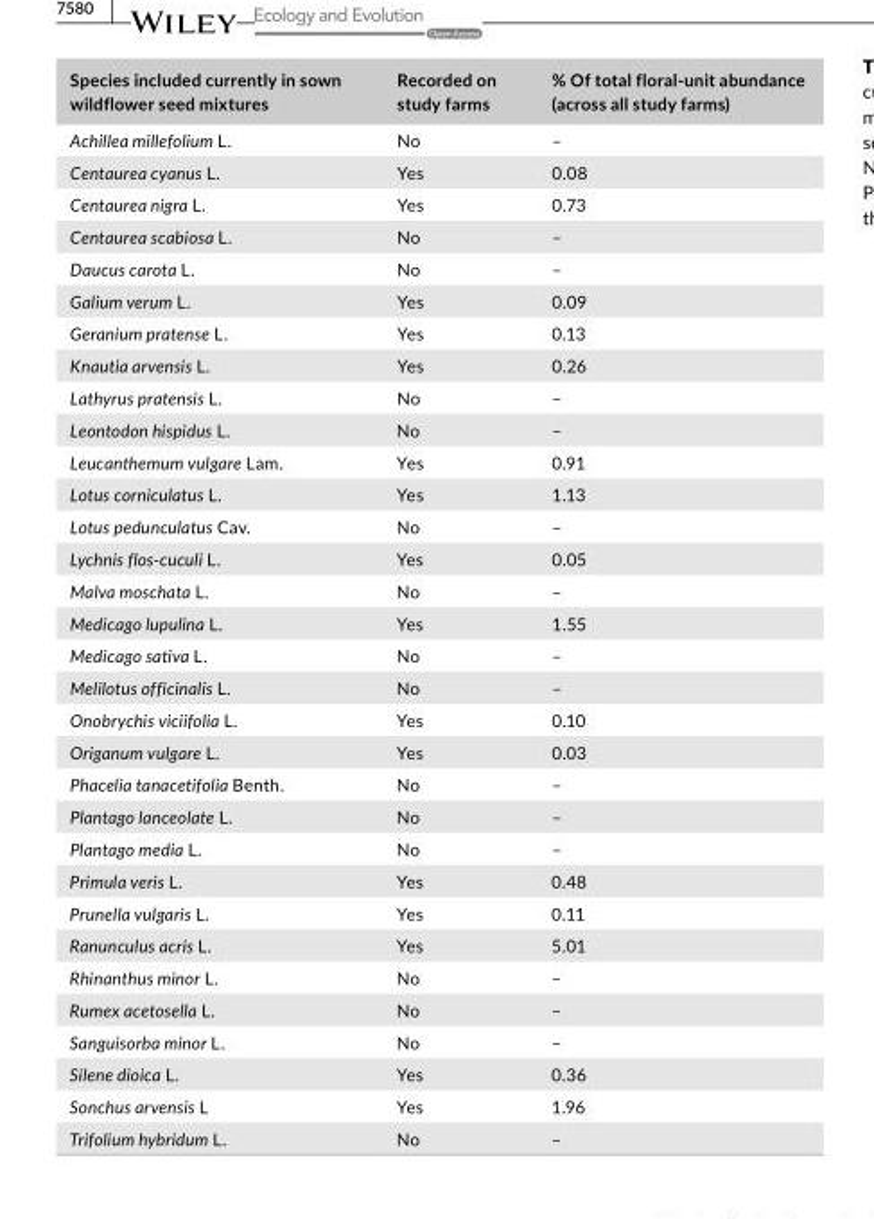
<table><thead><tr><td>Species included currently in sown wildflower seed mixtures</td><td>Recorded on study farms</td><td>% Of total floral- unit abundance (across all study farms)</td></tr></thead><tbody><tr><td>Achillea millefolium L.</td><td>No</td><td>–</td></tr><tr><td>Centaurea cyanus L.</td><td>Yes</td><td>0.08</td></tr><tr><td>Centaurea nigra L.</td><td>Yes</td><td>0.73</td></tr><tr><td>Centaurea scabiosa L.</td><td>No</td><td>–</td></tr><tr><td>Daucus carota L.</td><td>No</td><td>–</td></tr><tr><td>Galium verum L.</td><td>Yes</td><td>0.09</td></tr><tr><td>Geranium pratense L.</td><td>Yes</td><td>0.13</td></tr><tr><td>Knautia arvensis L.</td><td>Yes</td><td>0.26</td></tr><tr><td>Lathyrus pratensis L.</td><td>No</td><td>–</td></tr><tr><td>Leontodon hispidus L.</td><td>No</td><td>–</td></tr><tr><td>Leucanthemum vulgare Lam.</td><td>Yes</td><td>0.91</td></tr><tr><td>Lotus corniculatus L.</td><td>Yes</td><td>1.13</td></tr><tr><td>Lotus pedunculatus Cav.</td><td>No</td><td>–</td></tr><tr><td>Lychnis flos-cuculi L.</td><td>Yes</td><td>0.05</td></tr><tr><td>Malva moschata L.</td><td>No</td><td>–</td></tr><tr><td>Medicago lupulina L.</td><td>Yes</td><td>1.55</td></tr><tr><td>Medicago sativa L.</td><td>No</td><td>–</td></tr><tr><td>Melilotus officinalis L.</td><td>No</td><td>–</td></tr><tr><td>Onobrychis viciifolia L.</td><td>Yes</td><td>0.10</td></tr><tr><td>Origanum vulgare L.</td><td>Yes</td><td>0.03</td></tr><tr><td>Phacelia tanacetifolia Benth.</td><td>No</td><td>–</td></tr><tr><td>Plantago lanceolate L.</td><td>No</td><td>–</td></tr><tr><td>Plantago media L.</td><td>No</td><td>–</td></tr><tr><td>Primula veris L.</td><td>Yes</td><td>0.48</td></tr><tr><td>Prunella vulgaris L.</td><td>Yes</td><td>0.11</td></tr><tr><td>Ranunculus acris L.</td><td>Yes</td><td>5.01</td></tr><tr><td>Rhinanthus minor L.</td><td>No</td><td>–</td></tr><tr><td>Rumex acetosella L.</td><td>No</td><td>–</td></tr><tr><td>Sanguisorba minor L.</td><td>No</td><td>–</td></tr><tr><td>Silene dioica L.</td><td>Yes</td><td>0.36</td></tr><tr><td>Sonchus arvensis L</td><td>Yes</td><td>1.96</td></tr><tr><td>Trifolium hybridum L.</td><td>No</td><td>–</td></tr></tbody></table>